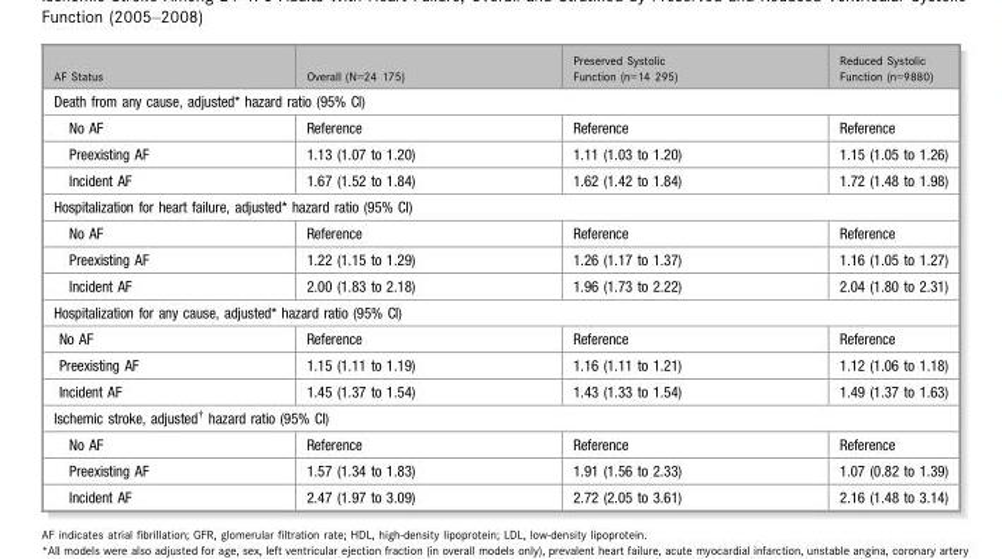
<table><thead><tr><td>AF Status</td><td>Overall (N=24 175)</td><td>Preserved Systolic Function (n=14 295)</td><td>Reduced Systolic Function (n=9880)</td></tr></thead><tbody><tr><td colspan="4">Death from any cause, adjusted* hazard ratio (95% CI)</td></tr><tr><td>No AF</td><td>Reference</td><td>Reference</td><td>Reference</td></tr><tr><td>Preexisting AF</td><td>1.13 (1.07 to 1.20)</td><td>1.11 (1.03 to 1.20)</td><td>1.15 (1.05 to 1.26)</td></tr><tr><td>Incident AF</td><td>1.67 (1.52 to 1.84)</td><td>1.62 (1.42 to 1.84)</td><td>1.72 (1.48 to 1.98)</td></tr><tr><td colspan="4">Hospitalization for heart failure, adjusted* hazard ratio (95% CI)</td></tr><tr><td>No AF</td><td>Reference</td><td>Reference</td><td>Reference</td></tr><tr><td>Preexisting AF</td><td>1.22 (1.15 to 1.29)</td><td>1.26 (1.17 to 1.37)</td><td>1.16 (1.05 to 1.27)</td></tr><tr><td>Incident AF</td><td>2.00 (1.83 to 2.18)</td><td>1.96 (1.73 to 2.22)</td><td>2.04 (1.80 to 2.31)</td></tr><tr><td colspan="4">Hospitalization for any cause, adjusted* hazard ratio (95% CI)</td></tr><tr><td>No AF</td><td>Reference</td><td>Reference</td><td>Reference</td></tr><tr><td>Preexisting AF</td><td>1.15 (1.11 to 1.19)</td><td>1.16 (1.11 to 1.21)</td><td>1.12 (1.06 to 1.18)</td></tr><tr><td>Incident AF</td><td>1.45 (1.37 to 1.54)</td><td>1.43 (1.33 to 1.54)</td><td>1.49 (1.37 to 1.63)</td></tr><tr><td colspan="4">Ischemic stroke, adjusted† hazard ratio (95% CI)</td></tr><tr><td>No AF</td><td>Reference</td><td>Reference</td><td>Reference</td></tr><tr><td>Preexisting AF</td><td>1.57 (1.34 to 1.83)</td><td>1.91 (1.56 to 2.33)</td><td>1.07 (0.82 to 1.39)</td></tr><tr><td>Incident AF</td><td>2.47 (1.97 to 3.09)</td><td>2.72 (2.05 to 3.61)</td><td>2.16 (1.48 to 3.14)</td></tr></tbody></table>